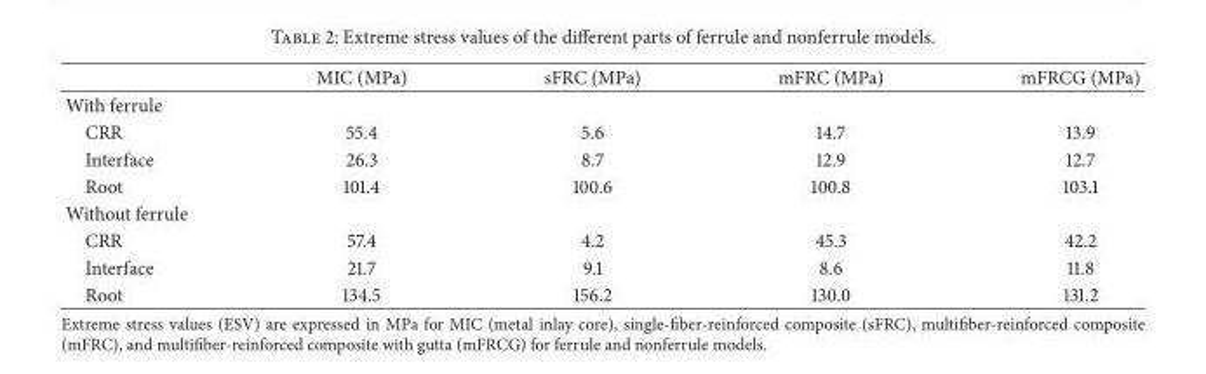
<table><thead><tr><td></td><td>MIC (MPa)</td><td>sFRC (MPa)</td><td>mFRC (MPa)</td><td>mFRCG (MPa)</td></tr></thead><tbody><tr><td colspan="5">With ferrule</td></tr><tr><td>CRR</td><td>55.4</td><td>5.6</td><td>14.7</td><td>13.9</td></tr><tr><td>Interface</td><td>26.3</td><td>8.7</td><td>12.9</td><td>12.7</td></tr><tr><td>Root</td><td>101.4</td><td>100.6</td><td>100.8</td><td>103.1</td></tr><tr><td colspan="5">Without ferrule</td></tr><tr><td>CRR</td><td>57.4</td><td>4.2</td><td>45.3</td><td>42.2</td></tr><tr><td>Interface</td><td>21.7</td><td>9.1</td><td>8.6</td><td>11.8</td></tr><tr><td>Root</td><td>134.5</td><td>156.2</td><td>130.0</td><td>131.2</td></tr></tbody></table>